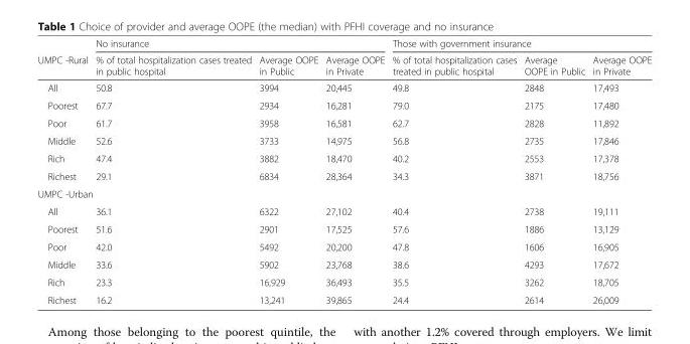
<table><thead><tr><td rowspan="2">UMPC -Rural</td><td colspan="3">No insurance</td><td colspan="3">Those with government insurance</td></tr><tr><td>% of total hospitalization cases treated in public hospital</td><td>Average OOPE in Public</td><td>Average OOPE in Private</td><td>% of total hospitalization cases treated in public hospital</td><td>Average OOPE in Public</td><td>Average OOPE in Private</td></tr></thead><tbody><tr><td>All</td><td>50.8</td><td>3994</td><td>20,445</td><td>49.8</td><td>2848</td><td>17,493</td></tr><tr><td>Poorest</td><td>67.7</td><td>2934</td><td>16,281</td><td>79.0</td><td>2175</td><td>17,480</td></tr><tr><td>Poor</td><td>61.7</td><td>3958</td><td>16,581</td><td>62.7</td><td>2828</td><td>11,892</td></tr><tr><td>Middle</td><td>52.6</td><td>3733</td><td>14,975</td><td>56.8</td><td>2735</td><td>17,846</td></tr><tr><td>Rich</td><td>47.4</td><td>3882</td><td>18,470</td><td>40.2</td><td>2553</td><td>17,378</td></tr><tr><td>Richest</td><td>29.1</td><td>6834</td><td>28,364</td><td>34.3</td><td>3871</td><td>18,756</td></tr><tr><td colspan="7">UMPC -Urban</td></tr><tr><td>All</td><td>36.1</td><td>6322</td><td>27,102</td><td>40.4</td><td>2738</td><td>19,111</td></tr><tr><td>Poorest</td><td>51.6</td><td>2901</td><td>17,525</td><td>57.6</td><td>1886</td><td>13,129</td></tr><tr><td>Poor</td><td>42.0</td><td>5492</td><td>20,200</td><td>47.8</td><td>1606</td><td>16,905</td></tr><tr><td>Middle</td><td>33.6</td><td>5902</td><td>23,768</td><td>38.6</td><td>4293</td><td>17,672</td></tr><tr><td>Rich</td><td>23.3</td><td>16,929</td><td>36,493</td><td>35.5</td><td>3262</td><td>18,705</td></tr><tr><td>Richest</td><td>16.2</td><td>13,241</td><td>39,865</td><td>24.4</td><td>2614</td><td>26,009</td></tr></tbody></table>